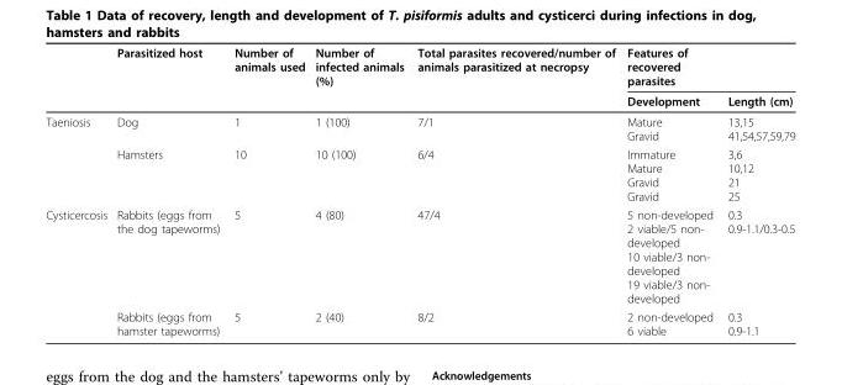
<table><thead><tr><td rowspan="2"></td><td rowspan="2">Parasitized host</td><td rowspan="2">Number of animals used</td><td rowspan="2">Number of infected animals (%)</td><td rowspan="2">Total parasites recovered/number of animals parasitized at necropsy</td><td rowspan="2">Features of recovered parasites Development</td><td rowspan="2">Length (cm)</td></tr><tr></tr></thead><tbody><tr><td rowspan="2">Taeniosis</td><td>Dog</td><td>1</td><td>1 (100)</td><td>7/1</td><td>Mature Gravid</td><td>13,15 41,54,57,59,79</td></tr><tr><td>Hamsters</td><td>10</td><td>10 (100)</td><td>6/4</td><td>Immature Mature Gravid Gravid</td><td>3,6 10,12 21 25</td></tr><tr><td rowspan="2">Cysticercosis</td><td>Rabbits (eggs from the dog tapeworms)</td><td>5</td><td>4 (80)</td><td>47/4</td><td>5 non-developed 2 viable/5 non- developed 10 viable/3 non- developed 19 viable/3 non- developed</td><td>0.3 0.9-1.1/0.3-0.5</td></tr><tr><td>Rabbits (eggs from hamster tapeworms)</td><td>5</td><td>2 (40)</td><td>8/2</td><td>2 non-developed 6 viable</td><td>0.3 0.9-1.1</td></tr></tbody></table>